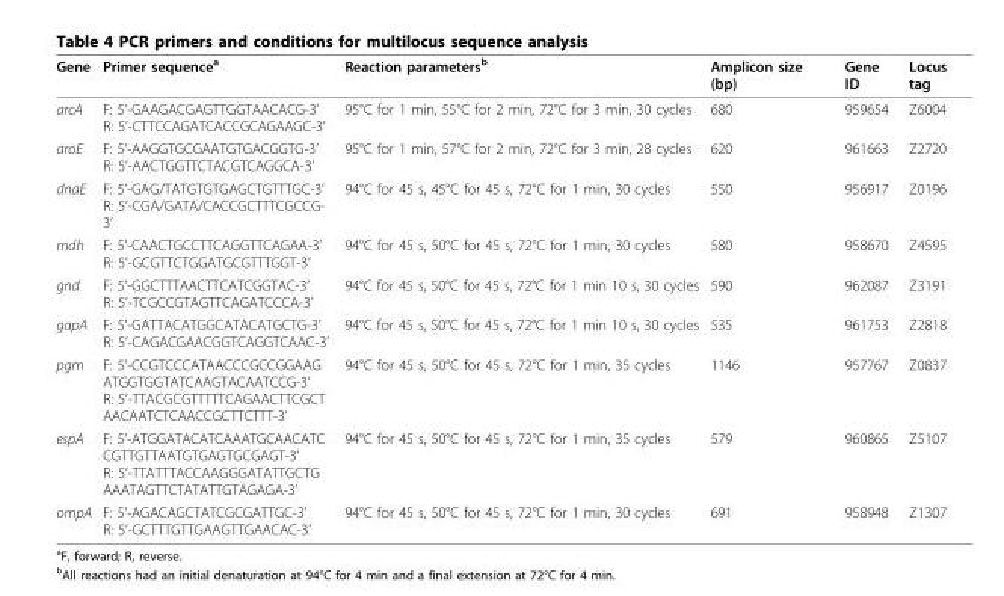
<table><thead><tr><td>Gene</td><td>Primer sequence<sup>a</sup></td><td>Reaction parameters<sup>b</sup></td><td>Amplicon size (bp)</td><td>Gene ID</td><td>Locus tag</td></tr></thead><tbody><tr><td>arcA</td><td>F: 5’-GAAGACGAGTTGGTAACACG-3’ R: 5’-CTTCCAGATCACCGCAGAAGC-3’</td><td>95°C for 1 min, 55°C for 2 min, 72°C for 3 min, 30 cycles</td><td>680</td><td>959654</td><td>Z6004</td></tr><tr><td>aroE</td><td>F: 5’-AAGGTGCGAATGTGACGGTG-3’ R: 5’-AACTGGTTCTACGTCAGGCA-3’</td><td>95°C for 1 min, 57°C for 2 min, 72°C for 3 min, 28 cycles</td><td>620</td><td>961663</td><td>Z2720</td></tr><tr><td>dnaE</td><td>F: 5’-GAG/TATGTGTGAGCTGTTTGC-3’ R: 5’-CGA/GATA/CACCGCTTTCGCCG- 3’</td><td>94°C for 45 s, 45°C for 45 s, 72°C for 1 min, 30 cycles</td><td>550</td><td>956917</td><td>Z0196</td></tr><tr><td>mdh</td><td>F: 5’-CAACTGCCTTCAGGTTCAGAA-3’ R: 5’-GCGTTCTGGATGCGTTTGGT-3’</td><td>94°C for 45 s, 50°C for 45 s, 72°C for 1 min, 30 cycles</td><td>580</td><td>958670</td><td>Z4595</td></tr><tr><td>gnd</td><td>F: 5’-GGCTTTAACTTCATCGGTAC-3’ R: 5’-TCGCCGTAGTTCAGATCCCA-3’</td><td>94°C for 45 s, 50°C for 45 s, 72°C for 1 min 10 s, 30 cycles</td><td>590</td><td>962087</td><td>Z3191</td></tr><tr><td>gapA</td><td>F: 5’-GATTACATGGCATACATGCTG-3’ R: 5’-CAGACGAACGGTCAGGTCAAC-3’</td><td>94°C for 45 s, 50°C for 45 s, 72°C for 1 min 10 s, 30 cycles</td><td>535</td><td>961753</td><td>Z2818</td></tr><tr><td>pgm</td><td>F: 5’-CCGTCCCATAACCCGCCGGAAG ATGGTGGTATCAAGTACAATCCG-3’ R: 5’-TTACGCGTTTTTCAGAACTTCGCT AACAATCTCAACCGCTTCTTT-3’</td><td>94°C for 45 s, 50°C for 45 s, 72°C for 1 min, 35 cycles</td><td>1146</td><td>957767</td><td>Z0837</td></tr><tr><td>espA</td><td>F: 5’-ATGGATACATCAAATGCAACATC CGTTGTTAATGTGAGTGCGAGT-3’ R: 5’-TTATTTACCAAGGGATATTGCTG AAATAGTTCTATATTGTAGAGA-3’</td><td>94°C for 45 s, 50°C for 45 s, 72°C for 1 min, 35 cycles</td><td>579</td><td>960865</td><td>Z5107</td></tr><tr><td>ompA</td><td>F: 5’-AGACAGCTATCGCGATTGC-3’ R: 5’-GCTTTGTTGAAGTTGAACAC-3’</td><td>94°C for 45 s, 50°C for 45 s, 72°C for 1 min, 30 cycles</td><td>691</td><td>958948</td><td>Z1307</td></tr></tbody></table>